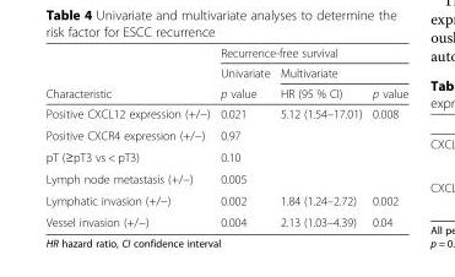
<table><thead><tr><td rowspan="3">Characteristic</td><td colspan="3">Recurrence-free survival</td></tr><tr><td rowspan="2">Univariate p value</td><td colspan="2">Multivariate</td></tr><tr><td>HR (95 % CI)</td><td>p value</td></tr></thead><tbody><tr><td>Positive CXCL12 expression (+/−)</td><td>0.021</td><td>5.12 (1.54–17.01)</td><td>0.008</td></tr><tr><td>Positive CXCR4 expression (+/−)</td><td>0.97</td><td></td><td></td></tr><tr><td>pT (≥pT3 vs &lt; pT3)</td><td>0.10</td><td></td><td></td></tr><tr><td>Lymph node metastasis (+/−)</td><td>0.005</td><td></td><td></td></tr><tr><td>Lymphatic invasion (+/−)</td><td>0.002</td><td>1.84 (1.24–2.72)</td><td>0.002</td></tr><tr><td>Vessel invasion (+/−)</td><td>0.004</td><td>2.13 (1.03–4.39)</td><td>0.04</td></tr></tbody></table>